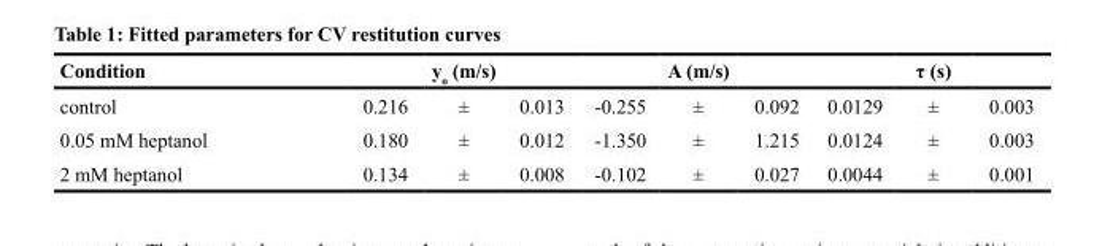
<table><thead><tr><td rowspan="2">Condition control</td><td colspan="3">y<sub>o</sub> (m/s)</td><td colspan="3">A (m/s)</td><td colspan="3">τ (s)</td></tr><tr><td>0.216</td><td>±</td><td>0.013</td><td>-0.255</td><td>±</td><td>0.092</td><td>0.0129</td><td>±</td><td>0.003</td></tr></thead><tbody><tr><td>0.05 mM heptanol</td><td>0.180</td><td>±</td><td>0.012</td><td>-1.350</td><td>±</td><td>1.215</td><td>0.0124</td><td>±</td><td>0.003</td></tr><tr><td>2 mM heptanol</td><td>0.134</td><td>±</td><td>0.008</td><td>-0.102</td><td>±</td><td>0.027</td><td>0.0044</td><td>±</td><td>0.001</td></tr></tbody></table>